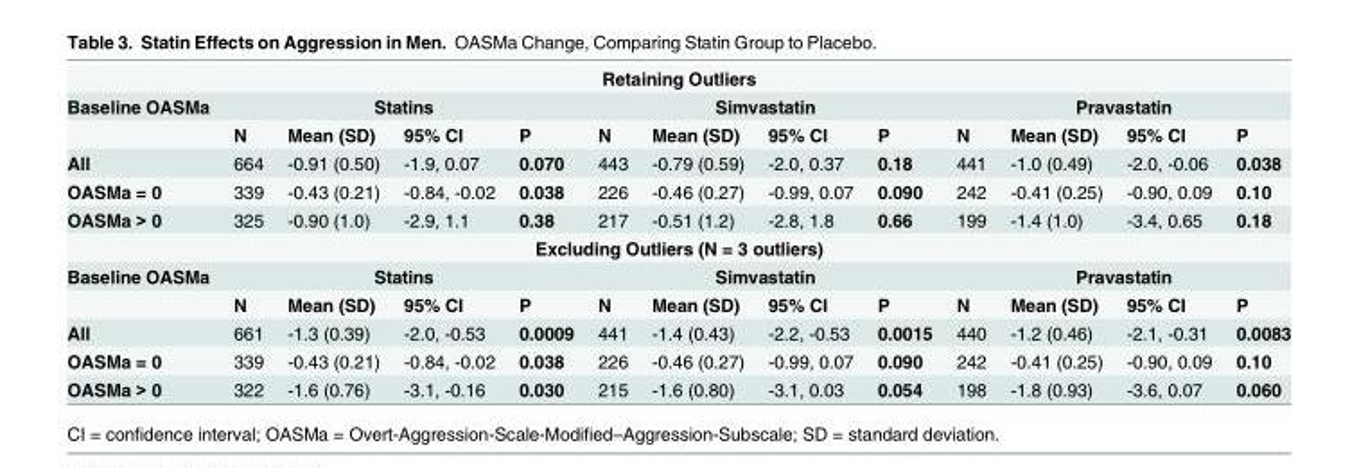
<table><tbody><tr><td colspan="13">Retaining Outliers</td></tr><tr><td rowspan="2">Baseline OASMa</td><td colspan="4">Statins</td><td colspan="4">Simvastatin</td><td colspan="4">Pravastatin</td></tr><tr><td>N</td><td>Mean (SD)</td><td>95% CI</td><td>P</td><td>N</td><td>Mean (SD)</td><td>95% CI</td><td>P</td><td>N</td><td>Mean (SD)</td><td>95% CI</td><td>P</td></tr><tr><td>All</td><td>664</td><td>-0.91 (0.50)</td><td>-1.9, 0.07</td><td>0.070</td><td>443</td><td>-0.79 (0.59)</td><td>-2.0, 0.37</td><td>0.18</td><td>441</td><td>-1.0 (0.49)</td><td>-2.0, -0.06</td><td>0.038</td></tr><tr><td>OASMa = 0</td><td>339</td><td>-0.43 (0.21)</td><td>-0.84, -0.02</td><td>0.038</td><td>226</td><td>-0.46 (0.27)</td><td>-0.99, 0.07</td><td>0.090</td><td>242</td><td>-0.41 (0.25)</td><td>-0.90, 0.09</td><td>0.10</td></tr><tr><td>OASMa &gt; 0</td><td>325</td><td>-0.90 (1.0)</td><td>-2.9, 1.1</td><td>0.38</td><td>217</td><td>-0.51 (1.2)</td><td>-2.8, 1.8</td><td>0.66</td><td>199</td><td>-1.4 (1.0)</td><td>-3.4, 0.65</td><td>0.18</td></tr><tr><td colspan="13">Excluding Outliers (N = 3 outliers)</td></tr><tr><td rowspan="2">Baseline OASMa</td><td colspan="4">Statins</td><td colspan="4">Simvastatin</td><td colspan="4">Pravastatin</td></tr><tr><td>N</td><td>Mean (SD)</td><td>95% CI</td><td>P</td><td>N</td><td>Mean (SD)</td><td>95% CI</td><td>P</td><td>N</td><td>Mean (SD)</td><td>95% CI</td><td>P</td></tr><tr><td>All</td><td>661</td><td>-1.3 (0.39)</td><td>-2.0, -0.53</td><td>0.0009</td><td>441</td><td>-1.4 (0.43)</td><td>-2.2, -0.53</td><td>0.0015</td><td>440</td><td>-1.2 (0.46)</td><td>-2.1, -0.31</td><td>0.0083</td></tr><tr><td>OASMa = 0</td><td>339</td><td>-0.43 (0.21)</td><td>-0.84, -0.02</td><td>0.038</td><td>226</td><td>-0.46 (0.27)</td><td>-0.99, 0.07</td><td>0.090</td><td>242</td><td>-0.41 (0.25)</td><td>-0.90, 0.09</td><td>0.10</td></tr><tr><td>OASMa &gt; 0</td><td>322</td><td>-1.6 (0.76)</td><td>-3.1, -0.16</td><td>0.030</td><td>215</td><td>-1.6 (0.80)</td><td>-3.1, 0.03</td><td>0.054</td><td>198</td><td>-1.8 (0.93)</td><td>-3.6, 0.07</td><td>0.060</td></tr></tbody></table>